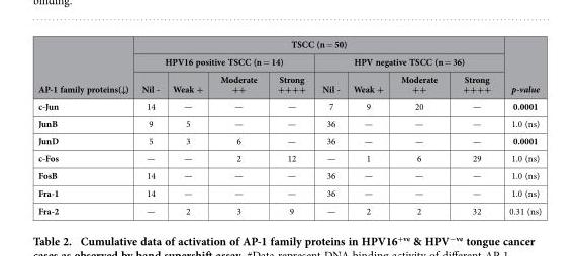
<table><thead><tr><td rowspan="3">AP-1 family proteins(↓)</td><td colspan="8">TSCC (n = 50)</td><td rowspan="3">p-value</td></tr><tr><td colspan="4">HPV16 positive TSCC (n = 14)</td><td colspan="4">HPV negative TSCC (n = 36)</td></tr><tr><td>Nil -</td><td>Weak +</td><td>Moderate ++</td><td>Strong ++++</td><td>Nil -</td><td>Weak +</td><td>Moderate ++</td><td>Strong ++++</td></tr></thead><tbody><tr><td>c-Jun</td><td>14</td><td>—</td><td>—</td><td>—</td><td>7</td><td>9</td><td>20</td><td>—</td><td>0.0001</td></tr><tr><td>JunB</td><td>9</td><td>5</td><td>—</td><td>—</td><td>36</td><td>—</td><td>—</td><td>—</td><td>1.0 (ns)</td></tr><tr><td>JunD</td><td>5</td><td>3</td><td>6</td><td>—</td><td>36</td><td>—</td><td>—</td><td>—</td><td>0.0001</td></tr><tr><td>c-Fos</td><td>—</td><td>—</td><td>2</td><td>12</td><td>—</td><td>1</td><td>6</td><td>29</td><td>1.0 (ns)</td></tr><tr><td>FosB</td><td>14</td><td>—</td><td>—</td><td>—</td><td>36</td><td>—</td><td>—</td><td>—</td><td>1.0 (ns)</td></tr><tr><td>Fra-1</td><td>14</td><td>—</td><td>—</td><td>—</td><td>36</td><td>—</td><td>—</td><td>—</td><td>1.0 (ns)</td></tr><tr><td>Fra-2</td><td>—</td><td>2</td><td>3</td><td>9</td><td>—</td><td>2</td><td>2</td><td>32</td><td>0.31 (ns)</td></tr></tbody></table>